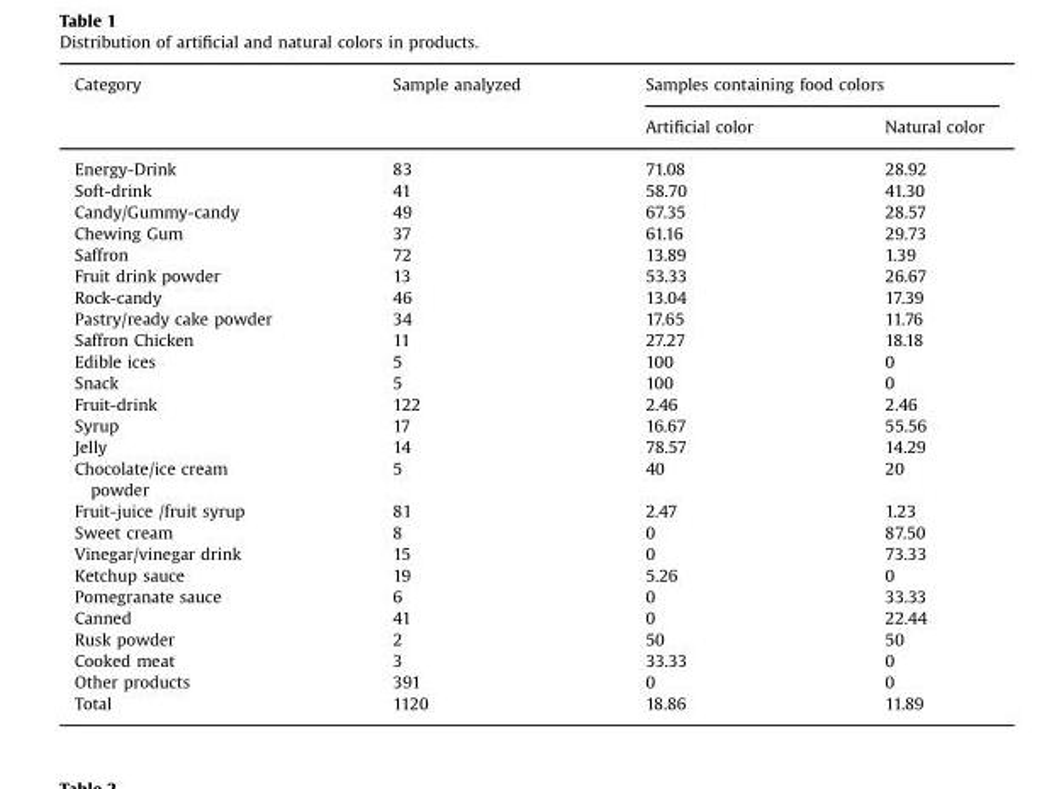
<table><thead><tr><td rowspan="2">Category</td><td rowspan="2">Sample analyzed</td><td colspan="2">Samples containing food colors</td></tr><tr><td>Artificial color</td><td>Natural color</td></tr></thead><tbody><tr><td>Energy-Drink</td><td>83</td><td>71.08</td><td>28.92</td></tr><tr><td>Soft-drink</td><td>41</td><td>58.70</td><td>41.30</td></tr><tr><td>Candy/Gummy-candy</td><td>49</td><td>67.35</td><td>28.57</td></tr><tr><td>Chewing Gum</td><td>37</td><td>61.16</td><td>29.73</td></tr><tr><td>Saffron</td><td>72</td><td>13.89</td><td>1.39</td></tr><tr><td>Fruit drink powder</td><td>13</td><td>53.33</td><td>26.67</td></tr><tr><td>Rock-candy</td><td>46</td><td>13.04</td><td>17.39</td></tr><tr><td>Pastry/ready cake powder</td><td>34</td><td>17.65</td><td>11.76</td></tr><tr><td>Saffron Chicken</td><td>11</td><td>27.27</td><td>18.18</td></tr><tr><td>Edible ices</td><td>5</td><td>100</td><td>0</td></tr><tr><td>Snack</td><td>5</td><td>100</td><td>0</td></tr><tr><td>Fruit-drink</td><td>122</td><td>2.46</td><td>2.46</td></tr><tr><td>Syrup</td><td>17</td><td>16.67</td><td>55.56</td></tr><tr><td>Jelly</td><td>14</td><td>78.57</td><td>14.29</td></tr><tr><td>Chocolate/ice cream powder</td><td>5</td><td>40</td><td>20</td></tr><tr><td>Fruit-juice /fruit syrup</td><td>81</td><td>2.47</td><td>1.23</td></tr><tr><td>Sweet cream</td><td>8</td><td>0</td><td>87.50</td></tr><tr><td>Vinegar/vinegar drink</td><td>15</td><td>0</td><td>73.33</td></tr><tr><td>Ketchup sauce</td><td>19</td><td>5.26</td><td>0</td></tr><tr><td>Pomegranate sauce</td><td>6</td><td>0</td><td>33.33</td></tr><tr><td>Canned</td><td>41</td><td>0</td><td>22.44</td></tr><tr><td>Rusk powder</td><td>2</td><td>50</td><td>50</td></tr><tr><td>Cooked meat</td><td>3</td><td>33.33</td><td>0</td></tr><tr><td>Other products</td><td>391</td><td>0</td><td>0</td></tr><tr><td>Total</td><td>1120</td><td>18.86</td><td>11.89</td></tr></tbody></table>